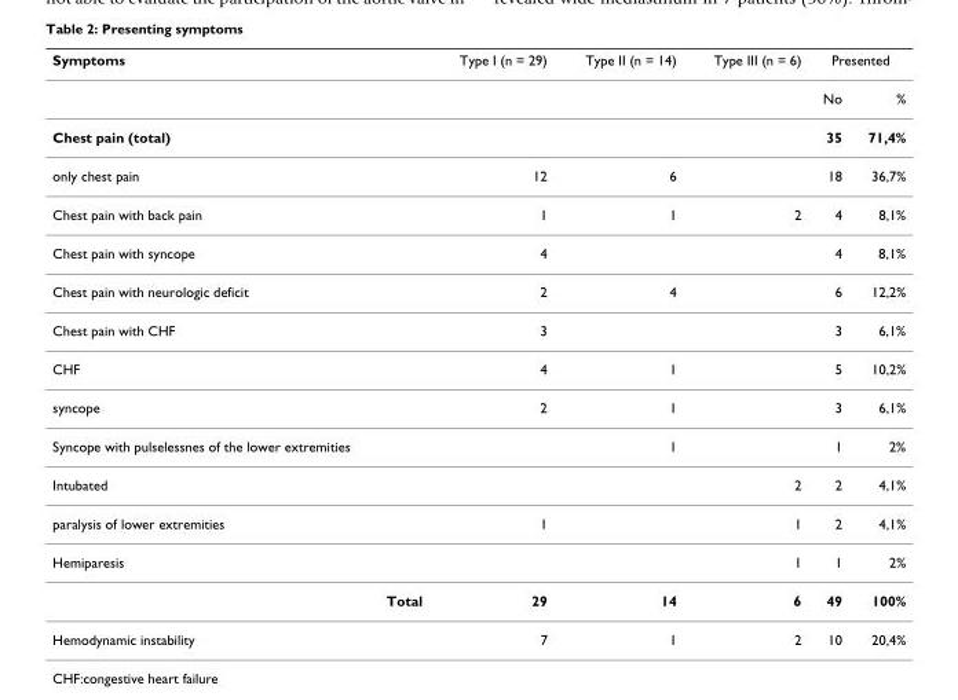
<table><thead><tr><td rowspan="2">Symptoms</td><td rowspan="2">Type I (n = 29)</td><td rowspan="2">Type II (n = 14)</td><td rowspan="2">Type III (n = 6)</td><td colspan="2">Presented</td></tr><tr><td>No</td><td>%</td></tr></thead><tbody><tr><td>Chest pain (total)</td><td></td><td></td><td></td><td>35</td><td>71,4%</td></tr><tr><td>only chest pain</td><td>12</td><td>6</td><td></td><td>18</td><td>36,7%</td></tr><tr><td>Chest pain with back pain</td><td>1</td><td>1</td><td>2</td><td>4</td><td>8,1%</td></tr><tr><td>Chest pain with syncope</td><td>4</td><td></td><td></td><td>4</td><td>8,1%</td></tr><tr><td>Chest pain with neurologic deficit</td><td>2</td><td>4</td><td></td><td>6</td><td>12,2%</td></tr><tr><td>Chest pain with CHF</td><td>3</td><td></td><td></td><td>3</td><td>6,1%</td></tr><tr><td>CHF</td><td>4</td><td>1</td><td></td><td>5</td><td>10,2%</td></tr><tr><td>syncope</td><td>2</td><td>1</td><td></td><td>3</td><td>6,1%</td></tr><tr><td>Syncope with pulselessnes of the lower extremities</td><td></td><td>1</td><td></td><td>1</td><td>2%</td></tr><tr><td>Intubated</td><td></td><td></td><td>2</td><td>2</td><td>4,1%</td></tr><tr><td>paralysis of lower extremities</td><td>1</td><td></td><td>1</td><td>2</td><td>4,1%</td></tr><tr><td>Hemiparesis</td><td></td><td></td><td>1</td><td>1</td><td>2%</td></tr><tr><td>Total</td><td>29</td><td>14</td><td>6</td><td>49</td><td>100%</td></tr><tr><td>Hemodynamic instability</td><td>7</td><td>1</td><td>2</td><td>10</td><td>20,4%</td></tr></tbody></table>